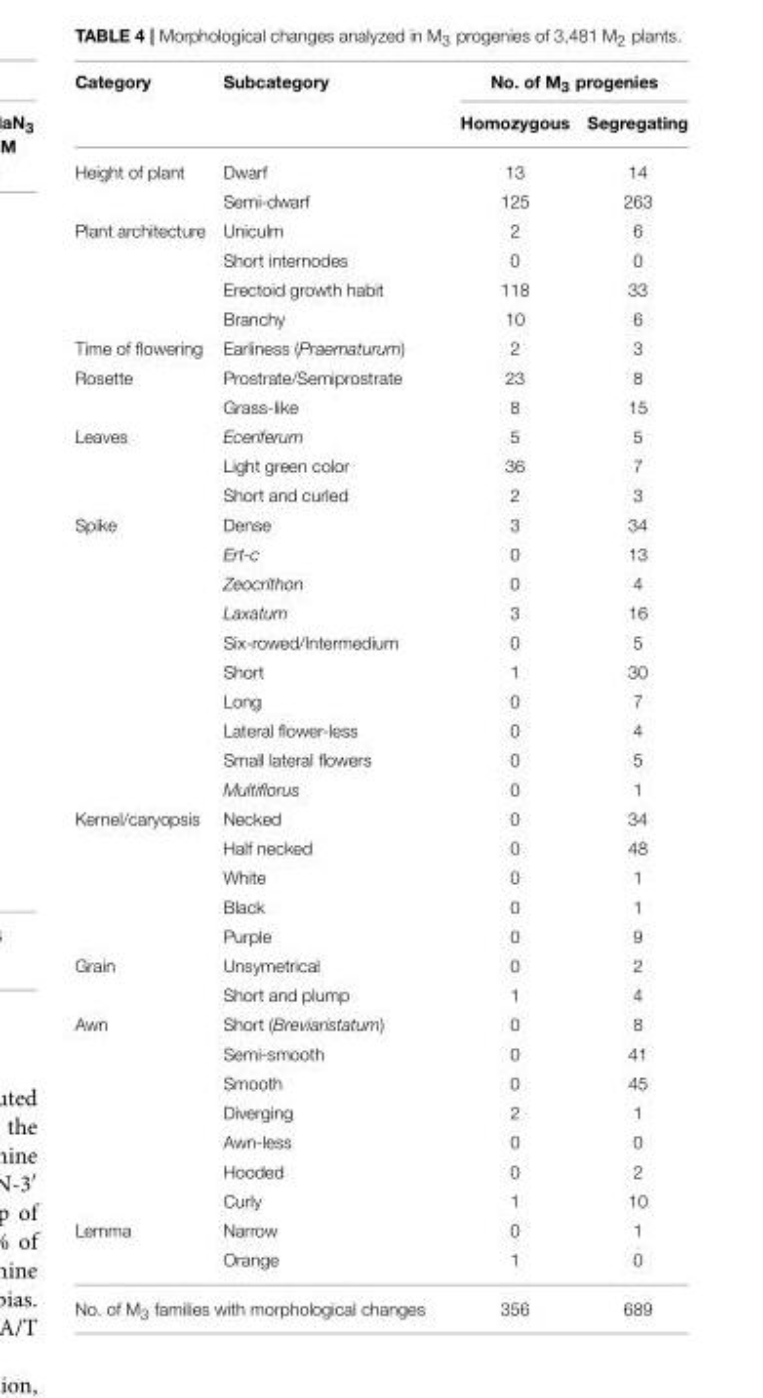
<table><thead><tr><td rowspan="2">Category</td><td rowspan="2">Subcategory</td><td colspan="2">No. of M<sub>3</sub> progenies</td></tr><tr><td>Homozygous</td><td>Segregating</td></tr></thead><tbody><tr><td rowspan="2">Height of plant</td><td>Dwarf</td><td>13</td><td>14</td></tr><tr><td>Semi-dwarf</td><td>125</td><td>263</td></tr><tr><td rowspan="4">Plant architecture</td><td>Uniculm</td><td>2</td><td>6</td></tr><tr><td>Short internodes</td><td>0</td><td>0</td></tr><tr><td>Erectoid growth habit</td><td>118</td><td>33</td></tr><tr><td>Branchy</td><td>10</td><td>6</td></tr><tr><td>Time of flowering</td><td>Earliness (Praematurum)</td><td>2</td><td>3</td></tr><tr><td rowspan="2">Rosette</td><td>Prostrate/Semiprostrate</td><td>23</td><td>8</td></tr><tr><td>Grass-like</td><td>8</td><td>15</td></tr><tr><td rowspan="3">Leaves</td><td>Eceriferum</td><td>5</td><td>5</td></tr><tr><td>Light green color</td><td>36</td><td>7</td></tr><tr><td>Short and curled</td><td>2</td><td>3</td></tr><tr><td rowspan="10">Spike</td><td>Dense</td><td>3</td><td>34</td></tr><tr><td>Ert-c</td><td>0</td><td>13</td></tr><tr><td>Zeocrithon</td><td>0</td><td>4</td></tr><tr><td>Laxatum</td><td>3</td><td>16</td></tr><tr><td>Six-rowed/Intermedium</td><td>0</td><td>5</td></tr><tr><td>Short</td><td>1</td><td>30</td></tr><tr><td>Long</td><td>0</td><td>7</td></tr><tr><td>Lateral flower-less</td><td>0</td><td>4</td></tr><tr><td>Small lateral flowers</td><td>0</td><td>5</td></tr><tr><td>Multiflorus</td><td>0</td><td>1</td></tr><tr><td rowspan="5">Kernel/caryopsis</td><td>Necked</td><td>0</td><td>34</td></tr><tr><td>Half necked</td><td>0</td><td>48</td></tr><tr><td>White</td><td>0</td><td>1</td></tr><tr><td>Black</td><td>0</td><td>1</td></tr><tr><td>Purple</td><td>0</td><td>9</td></tr><tr><td rowspan="2">Grain</td><td>Unsymetrical</td><td>0</td><td>2</td></tr><tr><td>Short and plump</td><td>1</td><td>4</td></tr><tr><td rowspan="7">Awn</td><td>Short (Breviaristatum)</td><td>0</td><td>8</td></tr><tr><td>Semi-smooth</td><td>0</td><td>41</td></tr><tr><td>Smooth</td><td>0</td><td>45</td></tr><tr><td>Diverging</td><td>2</td><td>1</td></tr><tr><td>Awn-less</td><td>0</td><td>0</td></tr><tr><td>Hooded</td><td>0</td><td>2</td></tr><tr><td>Curly</td><td>1</td><td>10</td></tr><tr><td rowspan="2">Lemma</td><td>Narrow</td><td>0</td><td>1</td></tr><tr><td>Orange</td><td>1</td><td>0</td></tr><tr><td colspan="2">No. of M<sub>3</sub> families with morphological changes</td><td>356</td><td>689</td></tr></tbody></table>